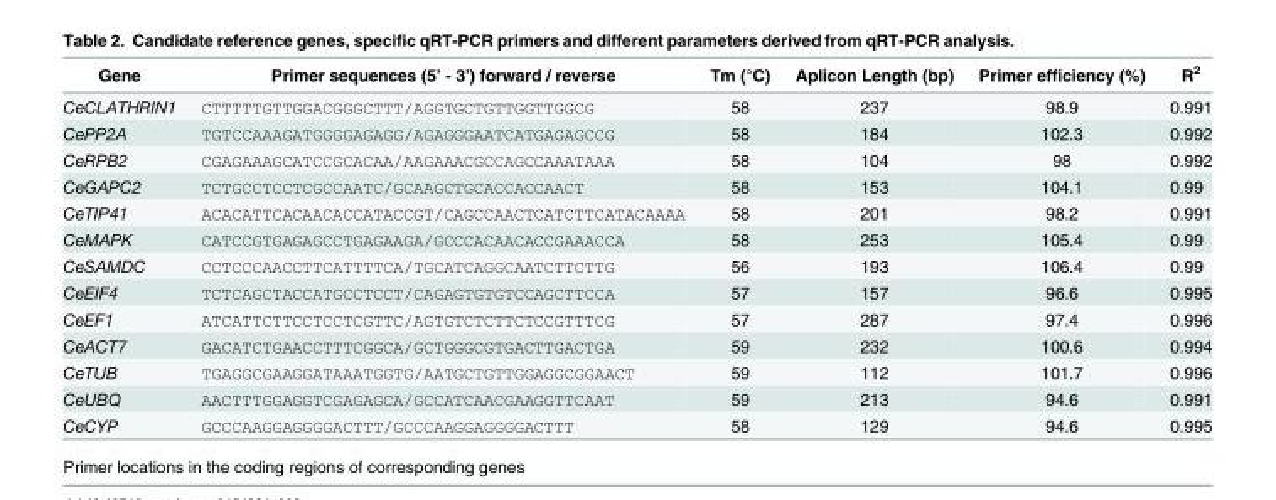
<table><thead><tr><td>Gene</td><td>Primer sequences (5’ - 3’) forward / reverse</td><td>Tm (°C)</td><td>Aplicon Length (bp)</td><td>Primer efficiency (%)</td><td>R<sup>2</sup></td></tr></thead><tbody><tr><td>CeCLATHRIN1</td><td>CTTTTTGTTGGACGGGCTTT/AGGTGCTGTTGGTTGGCG</td><td>58</td><td>237</td><td>98.9</td><td>0.991</td></tr><tr><td>CePP2A</td><td>TGTCCAAAGATGGGGAGAGG/AGAGGGAATCATGAGAGCCG</td><td>58</td><td>184</td><td>102.3</td><td>0.992</td></tr><tr><td>CeRPB2</td><td>CGAGAAAGCATCCGCACAA/AAGAAACGCCAGCCAAATAAA</td><td>58</td><td>104</td><td>98</td><td>0.992</td></tr><tr><td>CeGAPC2</td><td>TCTGCCTCCTCGCCAATC/GCAAGCTGCACCACCAACT</td><td>58</td><td>153</td><td>104.1</td><td>0.99</td></tr><tr><td>CeTIP41</td><td>ACACATTCACAACACCATACCGT/CAGCCAACTCATCTTCATACAAAA</td><td>58</td><td>201</td><td>98.2</td><td>0.991</td></tr><tr><td>CeMAPK</td><td>CATCCGTGAGAGCCTGAGAAGA/GCCCACAACACCGAAACCA</td><td>58</td><td>253</td><td>105.4</td><td>0.99</td></tr><tr><td>CeSAMDC</td><td>CCTCCCAACCTTCATTTTCA/TGCATCAGGCAATCTTCTTG</td><td>56</td><td>193</td><td>106.4</td><td>0.99</td></tr><tr><td>CeEIF4</td><td>TCTCAGCTACCATGCCTCCT/CAGAGTGTGTCCAGCTTCCA</td><td>57</td><td>157</td><td>96.6</td><td>0.995</td></tr><tr><td>CeEF1</td><td>ATCATTCTTCCTCCTCGTTC/AGTGTCTCTTCTCCGTTTCG</td><td>57</td><td>287</td><td>97.4</td><td>0.996</td></tr><tr><td>CeACT7</td><td>GACATCTGAACCTTTCGGCA/GCTGGGCGTGACTTGACTGA</td><td>59</td><td>232</td><td>100.6</td><td>0.994</td></tr><tr><td>CeTUB</td><td>TGAGGCGAAGGATAAATGGTG/AATGCTGTTGGAGGCGGAACT</td><td>59</td><td>112</td><td>101.7</td><td>0.996</td></tr><tr><td>CeUBQ</td><td>AACTTTGGAGGTCGAGAGCA/GCCATCAACGAAGGTTCAAT</td><td>59</td><td>213</td><td>94.6</td><td>0.991</td></tr><tr><td>CeCYP</td><td>GCCCAAGGAGGGGACTTT/GCCCAAGGAGGGGACTTT</td><td>58</td><td>129</td><td>94.6</td><td>0.995</td></tr></tbody></table>